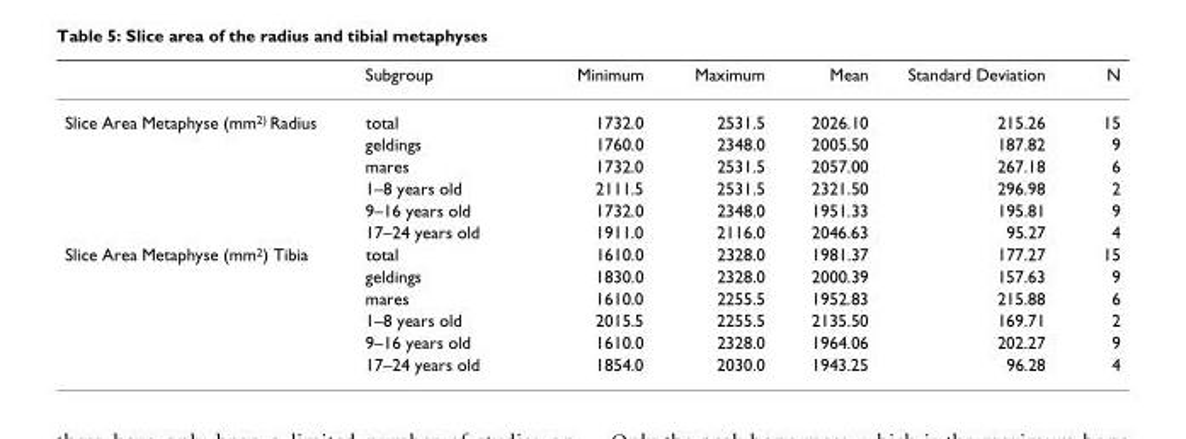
<table><thead><tr><td></td><td>Subgroup</td><td>Minimum</td><td>Maximum</td><td>Mean</td><td>Standard Deviation</td><td>N</td></tr></thead><tbody><tr><td rowspan="6">Slice Area Metaphyse (mm<sup>2)</sup> Radius</td><td>total</td><td>1732.0</td><td>2531.5</td><td>2026.10</td><td>215.26</td><td>15</td></tr><tr><td>geldings</td><td>1760.0</td><td>2348.0</td><td>2005.50</td><td>187.82</td><td>9</td></tr><tr><td>mares</td><td>1732.0</td><td>2531.5</td><td>2057.00</td><td>267.18</td><td>6</td></tr><tr><td>1–8 years old</td><td>2111.5</td><td>2531.5</td><td>2321.50</td><td>296.98</td><td>2</td></tr><tr><td>9–16 years old</td><td>1732.0</td><td>2348.0</td><td>1951.33</td><td>195.81</td><td>9</td></tr><tr><td>17–24 years old</td><td>1911.0</td><td>2116.0</td><td>2046.63</td><td>95.27</td><td>4</td></tr><tr><td rowspan="6">Slice Area Metaphyse (mm<sup>2</sup>) Tibia</td><td>total</td><td>1610.0</td><td>2328.0</td><td>1981.37</td><td>177.27</td><td>15</td></tr><tr><td>geldings</td><td>1830.0</td><td>2328.0</td><td>2000.39</td><td>157.63</td><td>9</td></tr><tr><td>mares</td><td>1610.0</td><td>2255.5</td><td>1952.83</td><td>215.88</td><td>6</td></tr><tr><td>1–8 years old</td><td>2015.5</td><td>2255.5</td><td>2135.50</td><td>169.71</td><td>2</td></tr><tr><td>9–16 years old</td><td>1610.0</td><td>2328.0</td><td>1964.06</td><td>202.27</td><td>9</td></tr><tr><td>17–24 years old</td><td>1854.0</td><td>2030.0</td><td>1943.25</td><td>96.28</td><td>4</td></tr></tbody></table>